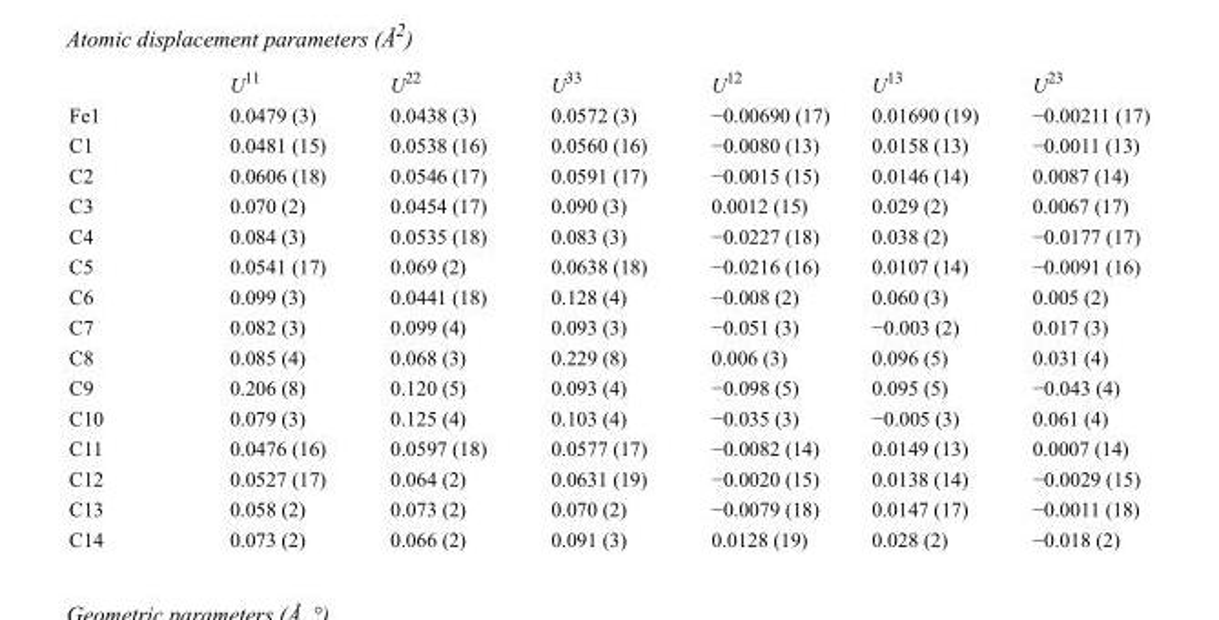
<table><thead><tr><td></td><td>U<sup>11</sup></td><td>U<sup>22</sup></td><td>U<sup>33</sup></td><td>U<sup>12</sup></td><td>U<sup>13</sup></td><td>U<sup>23</sup></td></tr></thead><tbody><tr><td>Fe1</td><td>0.0479 (3)</td><td>0.0438 (3)</td><td>0.0572 (3)</td><td>−0.00690 (17)</td><td>0.01690 (19)</td><td>−0.00211 (17)</td></tr><tr><td>C1</td><td>0.0481 (15)</td><td>0.0538 (16)</td><td>0.0560 (16)</td><td>−0.0080 (13)</td><td>0.0158 (13)</td><td>−0.0011 (13)</td></tr><tr><td>C2</td><td>0.0606 (18)</td><td>0.0546 (17)</td><td>0.0591 (17)</td><td>−0.0015 (15)</td><td>0.0146 (14)</td><td>0.0087 (14)</td></tr><tr><td>C3</td><td>0.070 (2)</td><td>0.0454 (17)</td><td>0.090 (3)</td><td>0.0012 (15)</td><td>0.029 (2)</td><td>0.0067 (17)</td></tr><tr><td>C4</td><td>0.084 (3)</td><td>0.0535 (18)</td><td>0.083 (3)</td><td>−0.0227 (18)</td><td>0.038 (2)</td><td>−0.0177 (17)</td></tr><tr><td>C5</td><td>0.0541 (17)</td><td>0.069 (2)</td><td>0.0638 (18)</td><td>−0.0216 (16)</td><td>0.0107 (14)</td><td>−0.0091 (16)</td></tr><tr><td>C6</td><td>0.099 (3)</td><td>0.0441 (18)</td><td>0.128 (4)</td><td>−0.008 (2)</td><td>0.060 (3)</td><td>0.005 (2)</td></tr><tr><td>C7</td><td>0.082 (3)</td><td>0.099 (4)</td><td>0.093 (3)</td><td>−0.051 (3)</td><td>−0.003 (2)</td><td>0.017 (3)</td></tr><tr><td>C8</td><td>0.085 (4)</td><td>0.068 (3)</td><td>0.229 (8)</td><td>0.006 (3)</td><td>0.096 (5)</td><td>0.031 (4)</td></tr><tr><td>C9</td><td>0.206 (8)</td><td>0.120 (5)</td><td>0.093 (4)</td><td>−0.098 (5)</td><td>0.095 (5)</td><td>−0.043 (4)</td></tr><tr><td>C10</td><td>0.079 (3)</td><td>0.125 (4)</td><td>0.103 (4)</td><td>−0.035 (3)</td><td>−0.005 (3)</td><td>0.061 (4)</td></tr><tr><td>C11</td><td>0.0476 (16)</td><td>0.0597 (18)</td><td>0.0577 (17)</td><td>−0.0082 (14)</td><td>0.0149 (13)</td><td>0.0007 (14)</td></tr><tr><td>C12</td><td>0.0527 (17)</td><td>0.064 (2)</td><td>0.0631 (19)</td><td>−0.0020 (15)</td><td>0.0138 (14)</td><td>−0.0029 (15)</td></tr><tr><td>C13</td><td>0.058 (2)</td><td>0.073 (2)</td><td>0.070 (2)</td><td>−0.0079 (18)</td><td>0.0147 (17)</td><td>−0.0011 (18)</td></tr><tr><td>C14</td><td>0.073 (2)</td><td>0.066 (2)</td><td>0.091 (3)</td><td>0.0128 (19)</td><td>0.028 (2)</td><td>−0.018 (2)</td></tr></tbody></table>